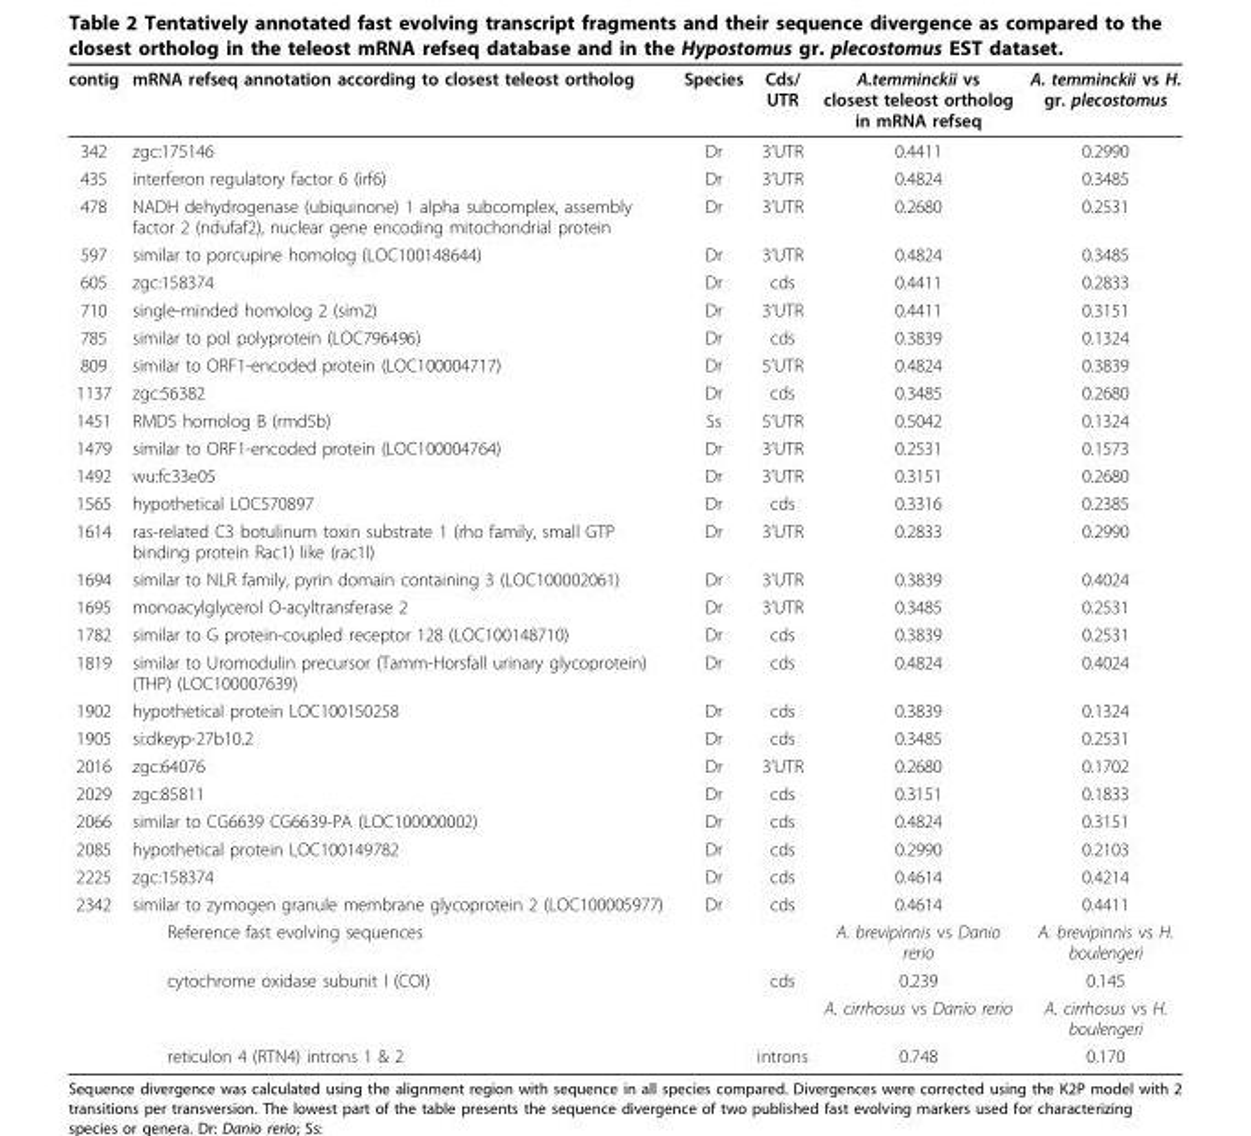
<table><thead><tr><td>contig</td><td>mRNA refseq annotation according to closest teleost ortholog</td><td>Species</td><td>Cds/ UTR</td><td>A.temminckii vs closest teleost ortholog in mRNA refseq</td><td>A. temminckii vs H. gr. plecostomus</td></tr></thead><tbody><tr><td>342</td><td>zgc:175146</td><td>Dr</td><td>3’UTR</td><td>0.4411</td><td>0.2990</td></tr><tr><td>435</td><td>interferon regulatory factor 6 (irf6)</td><td>Dr</td><td>3’UTR</td><td>0.4824</td><td>0.3485</td></tr><tr><td>478</td><td>NADH dehydrogenase (ubiquinone) 1 alpha subcomplex, assembly factor 2 (ndufaf2), nuclear gene encoding mitochondrial protein</td><td>Dr</td><td>3’UTR</td><td>0.2680</td><td>0.2531</td></tr><tr><td>597</td><td>similar to porcupine homolog (LOC100148644)</td><td>Dr</td><td>3’UTR</td><td>0.4824</td><td>0.3485</td></tr><tr><td>605</td><td>zgc:158374</td><td>Dr</td><td>cds</td><td>0.4411</td><td>0.2833</td></tr><tr><td>710</td><td>single-minded homolog 2 (sim2)</td><td>Dr</td><td>3’UTR</td><td>0.4411</td><td>0.3151</td></tr><tr><td>785</td><td>similar to pol polyprotein (LOC796496)</td><td>Dr</td><td>cds</td><td>0.3839</td><td>0.1324</td></tr><tr><td>809</td><td>similar to ORF1-encoded protein (LOC100004717)</td><td>Dr</td><td>5’UTR</td><td>0.4824</td><td>0.3839</td></tr><tr><td>1137</td><td>zgc:56382</td><td>Dr</td><td>cds</td><td>0.3485</td><td>0.2680</td></tr><tr><td>1451</td><td>RMD5 homolog B (rmd5b)</td><td>Ss</td><td>5’UTR</td><td>0.5042</td><td>0.1324</td></tr><tr><td>1479</td><td>similar to ORF1-encoded protein (LOC100004764)</td><td>Dr</td><td>3’UTR</td><td>0.2531</td><td>0.1573</td></tr><tr><td>1492</td><td>wu:fc33e05</td><td>Dr</td><td>3’UTR</td><td>0.3151</td><td>0.2680</td></tr><tr><td>1565</td><td>hypothetical LOC570897</td><td>Dr</td><td>cds</td><td>0.3316</td><td>0.2385</td></tr><tr><td>1614</td><td>ras-related C3 botulinum toxin substrate 1 (rho family, small GTP binding protein Rac1) like (rac1l)</td><td>Dr</td><td>3’UTR</td><td>0.2833</td><td>0.2990</td></tr><tr><td>1694</td><td>similar to NLR family, pyrin domain containing 3 (LOC100002061)</td><td>Dr</td><td>3’UTR</td><td>0.3839</td><td>0.4024</td></tr><tr><td>1695</td><td>monoacylglycerol O-acyltransferase 2</td><td>Dr</td><td>3’UTR</td><td>0.3485</td><td>0.2531</td></tr><tr><td>1782</td><td>similar to G protein-coupled receptor 128 (LOC100148710)</td><td>Dr</td><td>cds</td><td>0.3839</td><td>0.2531</td></tr><tr><td>1819</td><td>similar to Uromodulin precursor (Tamm-Horsfall urinary glycoprotein) (THP) (LOC100007639)</td><td>Dr</td><td>cds</td><td>0.4824</td><td>0.4024</td></tr><tr><td>1902</td><td>hypothetical protein LOC100150258</td><td>Dr</td><td>cds</td><td>0.3839</td><td>0.1324</td></tr><tr><td>1905</td><td>si:dkeyp-27b10.2</td><td>Dr</td><td>cds</td><td>0.3485</td><td>0.2531</td></tr><tr><td>2016</td><td>zgc:64076</td><td>Dr</td><td>3’UTR</td><td>0.2680</td><td>0.1702</td></tr><tr><td>2029</td><td>zgc:85811</td><td>Dr</td><td>cds</td><td>0.3151</td><td>0.1833</td></tr><tr><td>2066</td><td>similar to CG6639 CG6639-PA (LOC100000002)</td><td>Dr</td><td>cds</td><td>0.4824</td><td>0.3151</td></tr><tr><td>2085</td><td>hypothetical protein LOC100149782</td><td>Dr</td><td>cds</td><td>0.2990</td><td>0.2103</td></tr><tr><td>2225</td><td>zgc:158374</td><td>Dr</td><td>cds</td><td>0.4614</td><td>0.4214</td></tr><tr><td rowspan="5">2342</td><td>similar to zymogen granule membrane glycoprotein 2 (LOC100005977)</td><td>Dr</td><td>cds</td><td>0.4614</td><td>0.4411</td></tr><tr><td>Reference fast evolving sequences</td><td></td><td></td><td>A. brevipinnis vs Danio rerio</td><td>A. brevipinnis vs H. boulengeri</td></tr><tr><td>cytochrome oxidase subunit I (COI)</td><td></td><td>cds</td><td>0.239</td><td>0.145</td></tr><tr><td></td><td></td><td></td><td>A. cirrhosus vs Danio rerio</td><td>A. cirrhosus vs H. boulengeri</td></tr><tr><td>reticulon 4 (RTN4) introns 1 &amp; 2</td><td></td><td>introns</td><td>0.748</td><td>0.170</td></tr></tbody></table>